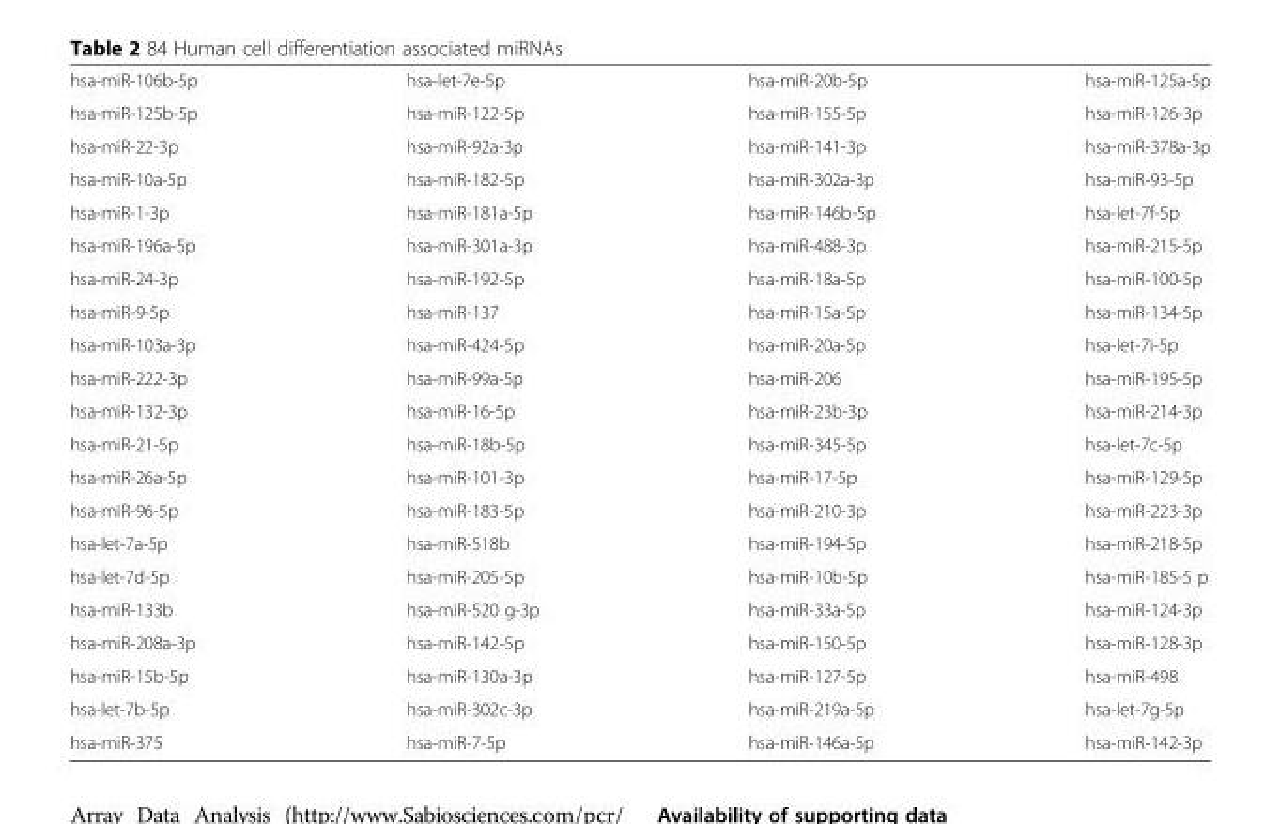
<table><tbody><tr><td>hsa-miR-106b-5p</td><td>hsa-let-7e-5p</td><td>hsa-miR-20b-5p</td><td>hsa-miR-125a-5p</td></tr><tr><td>hsa-miR-125b-5p</td><td>hsa-miR-122-5p</td><td>hsa-miR-155-5p</td><td>hsa-miR-126-3p</td></tr><tr><td>hsa-miR-22-3p</td><td>hsa-miR-92a-3p</td><td>hsa-miR-141-3p</td><td>hsa-miR-378a-3p</td></tr><tr><td>hsa-miR-10a-5p</td><td>hsa-miR-182-5p</td><td>hsa-miR-302a-3p</td><td>hsa-miR-93-5p</td></tr><tr><td>hsa-miR-1-3p</td><td>hsa-miR-181a-5p</td><td>hsa-miR-146b-5p</td><td>hsa-let-7f-5p</td></tr><tr><td>hsa-miR-196a-5p</td><td>hsa-miR-301a-3p</td><td>hsa-miR-488-3p</td><td>hsa-miR-215-5p</td></tr><tr><td>hsa-miR-24-3p</td><td>hsa-miR-192-5p</td><td>hsa-miR-18a-5p</td><td>hsa-miR-100-5p</td></tr><tr><td>hsa-miR-9-5p</td><td>hsa-miR-137</td><td>hsa-miR-15a-5p</td><td>hsa-miR-134-5p</td></tr><tr><td>hsa-miR-103a-3p</td><td>hsa-miR-424-5p</td><td>hsa-miR-20a-5p</td><td>hsa-let-7i-5p</td></tr><tr><td>hsa-miR-222-3p</td><td>hsa-miR-99a-5p</td><td>hsa-miR-206</td><td>hsa-miR-195-5p</td></tr><tr><td>hsa-miR-132-3p</td><td>hsa-miR-16-5p</td><td>hsa-miR-23b-3p</td><td>hsa-miR-214-3p</td></tr><tr><td>hsa-miR-21-5p</td><td>hsa-miR-18b-5p</td><td>hsa-miR-345-5p</td><td>hsa-let-7c-5p</td></tr><tr><td>hsa-miR-26a-5p</td><td>hsa-miR-101-3p</td><td>hsa-miR-17-5p</td><td>hsa-miR-129-5p</td></tr><tr><td>hsa-miR-96-5p</td><td>hsa-miR-183-5p</td><td>hsa-miR-210-3p</td><td>hsa-miR-223-3p</td></tr><tr><td>hsa-let-7a-5p</td><td>hsa-miR-518b</td><td>hsa-miR-194-5p</td><td>hsa-miR-218-5p</td></tr><tr><td>hsa-let-7d-5p</td><td>hsa-miR-205-5p</td><td>hsa-miR-10b-5p</td><td>hsa-miR-185-5 p</td></tr><tr><td>hsa-miR-133b</td><td>hsa-miR-520 g-3p</td><td>hsa-miR-33a-5p</td><td>hsa-miR-124-3p</td></tr><tr><td>hsa-miR-208a-3p</td><td>hsa-miR-142-5p</td><td>hsa-miR-150-5p</td><td>hsa-miR-128-3p</td></tr><tr><td>hsa-miR-15b-5p</td><td>hsa-miR-130a-3p</td><td>hsa-miR-127-5p</td><td>hsa-miR-498</td></tr><tr><td>hsa-let-7b-5p</td><td>hsa-miR-302c-3p</td><td>hsa-miR-219a-5p</td><td>hsa-let-7g-5p</td></tr><tr><td>hsa-miR-375</td><td>hsa-miR-7-5p</td><td>hsa-miR-146a-5p</td><td>hsa-miR-142-3p</td></tr></tbody></table>